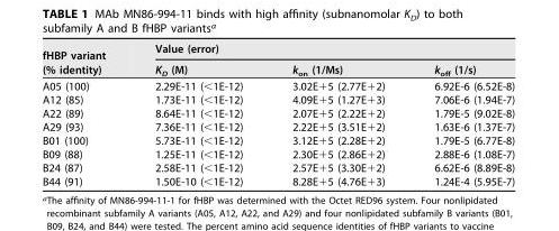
<table><thead><tr><td rowspan="2">fHBP variant (% identity)</td><td colspan="3">Value (error)</td></tr><tr><td>K<sub>D</sub> (M)</td><td>k<sub>on</sub> (1/Ms)</td><td>k<sub>off</sub> (1/s)</td></tr></thead><tbody><tr><td>A05 (100)</td><td>2.29E-11 (&lt;1E-12)</td><td>3.02E+5 (2.77E+2)</td><td>6.92E-6 (6.52E-8)</td></tr><tr><td>A12 (85)</td><td>1.73E-11 (&lt;1E-12)</td><td>4.09E+5 (1.27E+3)</td><td>7.06E-6 (1.94E-7)</td></tr><tr><td>A22 (89)</td><td>8.64E-11 (&lt;1E-12)</td><td>2.07E+5 (2.22E+2)</td><td>1.79E-5 (9.02E-8)</td></tr><tr><td>A29 (93)</td><td>7.36E-11 (&lt;1E-12)</td><td>2.22E+5 (3.51E+2)</td><td>1.63E-6 (1.37E-7)</td></tr><tr><td>B01 (100)</td><td>5.73E-11 (&lt;1E-12)</td><td>3.12E+5 (2.28E+2)</td><td>1.79E-5 (6.77E-8)</td></tr><tr><td>B09 (88)</td><td>1.25E-11 (&lt;1E-12)</td><td>2.30E+5 (2.86E+2)</td><td>2.88E-6 (1.08E-7)</td></tr><tr><td>B24 (87)</td><td>2.58E-11 (&lt;1E-12)</td><td>2.57E+5 (3.30E+2)</td><td>6.62E-6 (8.89E-8)</td></tr><tr><td>B44 (91)</td><td>1.50E-10 (&lt;1E-12)</td><td>8.28E+5 (4.76E+3)</td><td>1.24E-4 (5.95E-7)</td></tr></tbody></table>